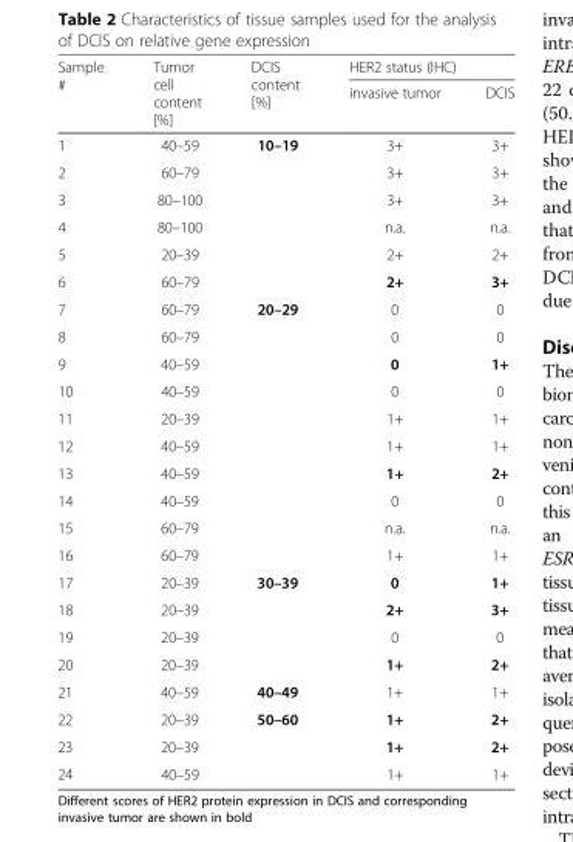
<table><thead><tr><td rowspan="2">Sample #</td><td rowspan="2">Tumor cell content [%]</td><td rowspan="2">DCIS content [%]</td><td colspan="2">HER2 status (IHC)</td></tr><tr><td>invasive tumor</td><td>DCIS</td></tr></thead><tbody><tr><td>1</td><td>40–59</td><td rowspan="6">10–19</td><td>3+</td><td>3+</td></tr><tr><td>2</td><td>60–79</td><td>3+</td><td>3+</td></tr><tr><td>3</td><td>80–100</td><td>3+</td><td>3+</td></tr><tr><td>4</td><td>80–100</td><td>n.a.</td><td>n.a.</td></tr><tr><td>5</td><td>20–39</td><td>2+</td><td>2+</td></tr><tr><td>6</td><td>60–79</td><td>2+</td><td>3+</td></tr><tr><td>7</td><td>60–79</td><td rowspan="10">20–29</td><td>0</td><td>0</td></tr><tr><td>8</td><td>60–79</td><td>0</td><td>0</td></tr><tr><td>9</td><td>40–59</td><td>0</td><td>1+</td></tr><tr><td>10</td><td>40–59</td><td>0</td><td>0</td></tr><tr><td>11</td><td>20–39</td><td>1+</td><td>1+</td></tr><tr><td>12</td><td>40–59</td><td>1+</td><td>1+</td></tr><tr><td>13</td><td>40–59</td><td>1+</td><td>2+</td></tr><tr><td>14</td><td>40–59</td><td>0</td><td>0</td></tr><tr><td>15</td><td>60–79</td><td>n.a.</td><td>n.a.</td></tr><tr><td>16</td><td>60–79</td><td>1+</td><td>1+</td></tr><tr><td>17</td><td>20–39</td><td rowspan="4">30–39</td><td>0</td><td>1+</td></tr><tr><td>18</td><td>20–39</td><td>2+</td><td>3+</td></tr><tr><td>19</td><td>20–39</td><td>0</td><td>0</td></tr><tr><td>20</td><td>20–39</td><td>1+</td><td>2+</td></tr><tr><td>21</td><td>40–59</td><td>40–49</td><td>1+</td><td>1+</td></tr><tr><td>22</td><td>20–39</td><td rowspan="3">50–60</td><td>1+</td><td>2+</td></tr><tr><td>23</td><td>20–39</td><td>1+</td><td>2+</td></tr><tr><td>24</td><td>40–59</td><td>1+</td><td>1+</td></tr></tbody></table>